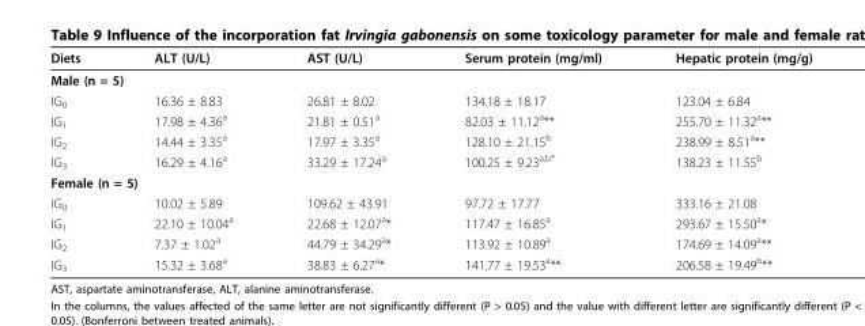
<table><thead><tr><td>Diets</td><td>ALT (U/L)</td><td>AST (U/L)</td><td>Serum protein (mg/ml)</td><td>Hepatic protein (mg/g)</td></tr></thead><tbody><tr><td colspan="5">Male (n = 5)</td></tr><tr><td>IG<sub>0</sub></td><td>16.36 ± 8.83</td><td>26.81 ± 8.02</td><td>134.18 ± 18.17</td><td>123.04 ± 6.84</td></tr><tr><td>IG<sub>1</sub></td><td>17.98 ± 4.36<sup>a</sup></td><td>21.81 ± 0.51<sup>a</sup></td><td>82.03 ± 11.12<sup>a</sup>**</td><td>255.70 ± 11.32<sup>a</sup>**</td></tr><tr><td>IG<sub>2</sub></td><td>14.44 ± 3.35<sup>a</sup></td><td>17.97 ± 3.35<sup>a</sup></td><td>128.10 ± 21.15<sup>b</sup></td><td>238.99 ± 8.51<sup>a</sup>**</td></tr><tr><td>IG<sub>3</sub></td><td>16.29 ± 4.16<sup>a</sup></td><td>33.29 ± 17.24<sup>a</sup></td><td>100.25 ± 9.23<sup>a,b*</sup></td><td>138.23 ± 11.55<sup>b</sup></td></tr><tr><td colspan="5">Female (n = 5)</td></tr><tr><td>IG<sub>0</sub></td><td>10.02 ± 5.89</td><td>109.62 ± 43.91</td><td>97.72 ± 17.77</td><td>333.16 ± 21.08</td></tr><tr><td>IG<sub>1</sub></td><td>22.10 ± 10.04<sup>a</sup></td><td>22.68 ± 12.07<sup>a</sup>*</td><td>117.47 ± 16.85<sup>a</sup></td><td>293.67 ± 15.50<sup>a</sup>*</td></tr><tr><td>IG<sub>2</sub></td><td>7.37 ± 1.02<sup>a</sup></td><td>44.79 ± 34.29<sup>a</sup>*</td><td>113.92 ± 10.89<sup>a</sup></td><td>174.69 ± 14.09<sup>a</sup>**</td></tr><tr><td>IG<sub>3</sub></td><td>15.32 ± 3.68<sup>a</sup></td><td>38.83 ± 6.27<sup>a</sup>*</td><td>141.77 ± 19.53<sup>a</sup>**</td><td>206.58 ± 19.49<sup>b</sup>**</td></tr></tbody></table>